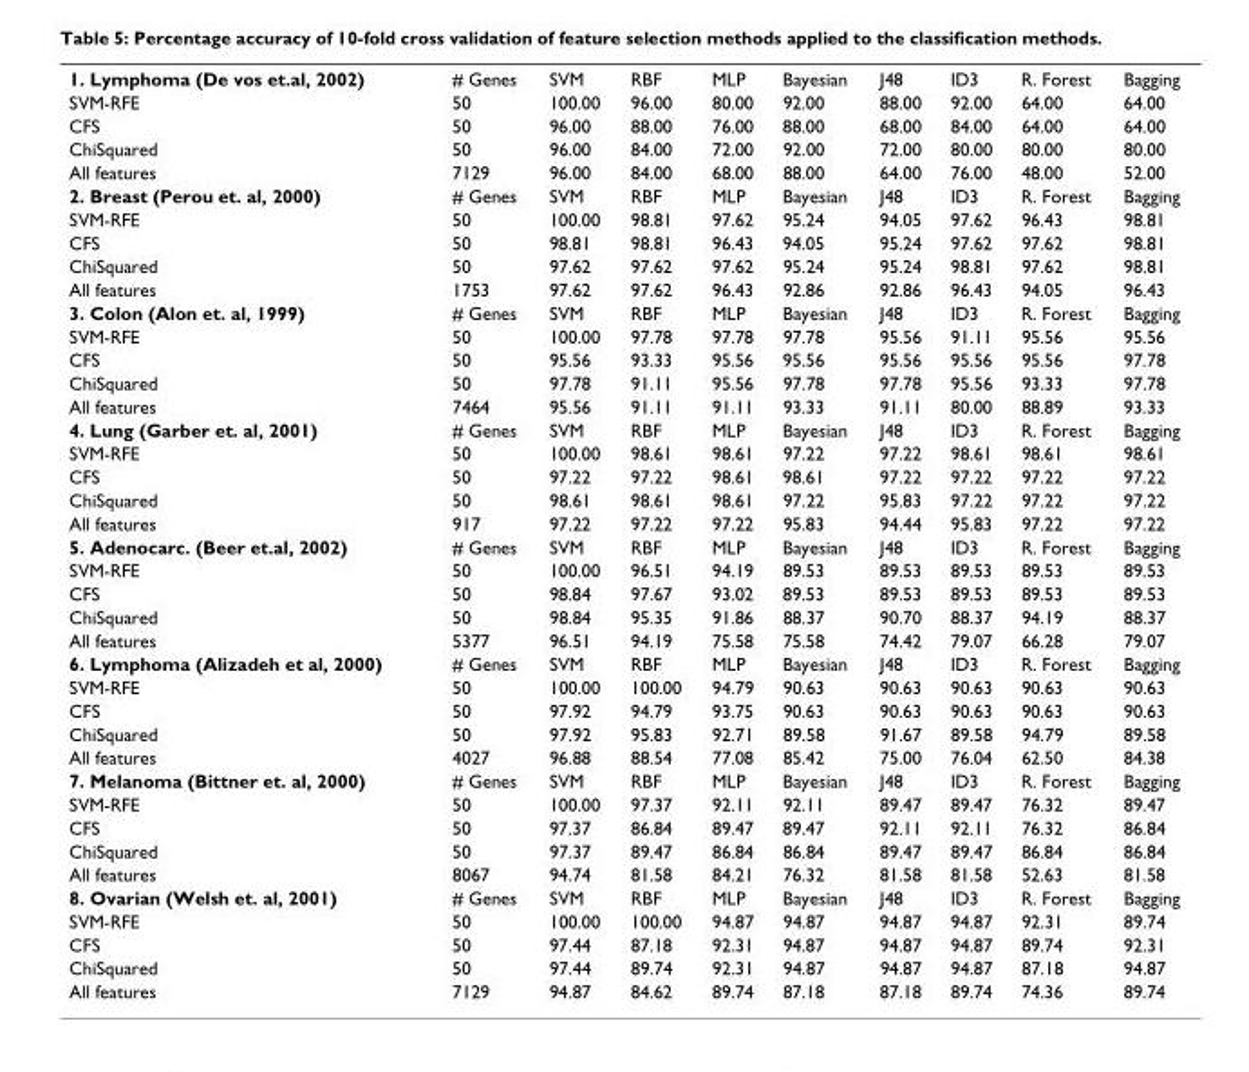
<table><tbody><tr><td>1. Lymphoma (De vos et.al, 2002)</td><td># Genes</td><td>SVM</td><td>RBF</td><td>MLP</td><td>Bayesian</td><td>J48</td><td>ID3</td><td>R. Forest</td><td>Bagging</td></tr><tr><td>SVM-RFE</td><td>50</td><td>100.00</td><td>96.00</td><td>80.00</td><td>92.00</td><td>88.00</td><td>92.00</td><td>64.00</td><td>64.00</td></tr><tr><td>CFS</td><td>50</td><td>96.00</td><td>88.00</td><td>76.00</td><td>88.00</td><td>68.00</td><td>84.00</td><td>64.00</td><td>64.00</td></tr><tr><td>ChiSquared</td><td>50</td><td>96.00</td><td>84.00</td><td>72.00</td><td>92.00</td><td>72.00</td><td>80.00</td><td>80.00</td><td>80.00</td></tr><tr><td>All features</td><td>7129</td><td>96.00</td><td>84.00</td><td>68.00</td><td>88.00</td><td>64.00</td><td>76.00</td><td>48.00</td><td>52.00</td></tr><tr><td>2. Breast (Perou et. al, 2000)</td><td># Genes</td><td>SVM</td><td>RBF</td><td>MLP</td><td>Bayesian</td><td>J48</td><td>ID3</td><td>R. Forest</td><td>Bagging</td></tr><tr><td>SVM-RFE</td><td>50</td><td>100.00</td><td>98.81</td><td>97.62</td><td>95.24</td><td>94.05</td><td>97.62</td><td>96.43</td><td>98.81</td></tr><tr><td>CFS</td><td>50</td><td>98.81</td><td>98.81</td><td>96.43</td><td>94.05</td><td>95.24</td><td>97.62</td><td>97.62</td><td>98.81</td></tr><tr><td>ChiSquared</td><td>50</td><td>97.62</td><td>97.62</td><td>97.62</td><td>95.24</td><td>95.24</td><td>98.81</td><td>97.62</td><td>98.81</td></tr><tr><td>All features</td><td>1753</td><td>97.62</td><td>97.62</td><td>96.43</td><td>92.86</td><td>92.86</td><td>96.43</td><td>94.05</td><td>96.43</td></tr><tr><td>3. Colon (Alon et. al, 1999)</td><td># Genes</td><td>SVM</td><td>RBF</td><td>MLP</td><td>Bayesian</td><td>J48</td><td>ID3</td><td>R. Forest</td><td>Bagging</td></tr><tr><td>SVM-RFE</td><td>50</td><td>100.00</td><td>97.78</td><td>97.78</td><td>97.78</td><td>95.56</td><td>91.11</td><td>95.56</td><td>95.56</td></tr><tr><td>CFS</td><td>50</td><td>95.56</td><td>93.33</td><td>95.56</td><td>95.56</td><td>95.56</td><td>95.56</td><td>95.56</td><td>97.78</td></tr><tr><td>ChiSquared</td><td>50</td><td>97.78</td><td>91.11</td><td>95.56</td><td>97.78</td><td>97.78</td><td>95.56</td><td>93.33</td><td>97.78</td></tr><tr><td>All features</td><td>7464</td><td>95.56</td><td>91.11</td><td>91.11</td><td>93.33</td><td>91.11</td><td>80.00</td><td>88.89</td><td>93.33</td></tr><tr><td>4. Lung (Garber et. al, 2001)</td><td># Genes</td><td>SVM</td><td>RBF</td><td>MLP</td><td>Bayesian</td><td>J48</td><td>ID3</td><td>R. Forest</td><td>Bagging</td></tr><tr><td>SVM-RFE</td><td>50</td><td>100.00</td><td>98.61</td><td>98.61</td><td>97.22</td><td>97.22</td><td>98.61</td><td>98.61</td><td>98.61</td></tr><tr><td>CFS</td><td>50</td><td>97.22</td><td>97.22</td><td>98.61</td><td>98.61</td><td>97.22</td><td>97.22</td><td>97.22</td><td>97.22</td></tr><tr><td>ChiSquared</td><td>50</td><td>98.61</td><td>98.61</td><td>98.61</td><td>97.22</td><td>95.83</td><td>97.22</td><td>97.22</td><td>97.22</td></tr><tr><td>All features</td><td>917</td><td>97.22</td><td>97.22</td><td>97.22</td><td>95.83</td><td>94.44</td><td>95.83</td><td>97.22</td><td>97.22</td></tr><tr><td>5. Adenocarc. (Beer et.al, 2002)</td><td># Genes</td><td>SVM</td><td>RBF</td><td>MLP</td><td>Bayesian</td><td>J48</td><td>ID3</td><td>R. Forest</td><td>Bagging</td></tr><tr><td>SVM-RFE</td><td>50</td><td>100.00</td><td>96.51</td><td>94.19</td><td>89.53</td><td>89.53</td><td>89.53</td><td>89.53</td><td>89.53</td></tr><tr><td>CFS</td><td>50</td><td>98.84</td><td>97.67</td><td>93.02</td><td>89.53</td><td>89.53</td><td>89.53</td><td>89.53</td><td>89.53</td></tr><tr><td>ChiSquared</td><td>50</td><td>98.84</td><td>95.35</td><td>91.86</td><td>88.37</td><td>90.70</td><td>88.37</td><td>94.19</td><td>88.37</td></tr><tr><td>All features</td><td>5377</td><td>96.51</td><td>94.19</td><td>75.58</td><td>75.58</td><td>74.42</td><td>79.07</td><td>66.28</td><td>79.07</td></tr><tr><td>6. Lymphoma (Alizadeh et al, 2000)</td><td># Genes</td><td>SVM</td><td>RBF</td><td>MLP</td><td>Bayesian</td><td>J48</td><td>ID3</td><td>R. Forest</td><td>Bagging</td></tr><tr><td>SVM-RFE</td><td>50</td><td>100.00</td><td>100.00</td><td>94.79</td><td>90.63</td><td>90.63</td><td>90.63</td><td>90.63</td><td>90.63</td></tr><tr><td>CFS</td><td>50</td><td>97.92</td><td>94.79</td><td>93.75</td><td>90.63</td><td>90.63</td><td>90.63</td><td>90.63</td><td>90.63</td></tr><tr><td>ChiSquared</td><td>50</td><td>97.92</td><td>95.83</td><td>92.71</td><td>89.58</td><td>91.67</td><td>89.58</td><td>94.79</td><td>89.58</td></tr><tr><td>All features</td><td>4027</td><td>96.88</td><td>88.54</td><td>77.08</td><td>85.42</td><td>75.00</td><td>76.04</td><td>62.50</td><td>84.38</td></tr><tr><td>7. Melanoma (Bittner et. al, 2000)</td><td># Genes</td><td>SVM</td><td>RBF</td><td>MLP</td><td>Bayesian</td><td>J48</td><td>ID3</td><td>R. Forest</td><td>Bagging</td></tr><tr><td>SVM-RFE</td><td>50</td><td>100.00</td><td>97.37</td><td>92.11</td><td>92.11</td><td>89.47</td><td>89.47</td><td>76.32</td><td>89.47</td></tr><tr><td>CFS</td><td>50</td><td>97.37</td><td>86.84</td><td>89.47</td><td>89.47</td><td>92.11</td><td>92.11</td><td>76.32</td><td>86.84</td></tr><tr><td>ChiSquared</td><td>50</td><td>97.37</td><td>89.47</td><td>86.84</td><td>86.84</td><td>89.47</td><td>89.47</td><td>86.84</td><td>86.84</td></tr><tr><td>All features</td><td>8067</td><td>94.74</td><td>81.58</td><td>84.21</td><td>76.32</td><td>81.58</td><td>81.58</td><td>52.63</td><td>81.58</td></tr><tr><td>8. Ovarian (Welsh et. al, 2001)</td><td># Genes</td><td>SVM</td><td>RBF</td><td>MLP</td><td>Bayesian</td><td>J48</td><td>ID3</td><td>R. Forest</td><td>Bagging</td></tr><tr><td>SVM-RFE</td><td>50</td><td>100.00</td><td>100.00</td><td>94.87</td><td>94.87</td><td>94.87</td><td>94.87</td><td>92.31</td><td>89.74</td></tr><tr><td>CFS</td><td>50</td><td>97.44</td><td>87.18</td><td>92.31</td><td>94.87</td><td>94.87</td><td>94.87</td><td>89.74</td><td>92.31</td></tr><tr><td>ChiSquared</td><td>50</td><td>97.44</td><td>89.74</td><td>92.31</td><td>94.87</td><td>94.87</td><td>94.87</td><td>87.18</td><td>94.87</td></tr><tr><td>All features</td><td>7129</td><td>94.87</td><td>84.62</td><td>89.74</td><td>87.18</td><td>87.18</td><td>89.74</td><td>74.36</td><td>89.74</td></tr></tbody></table>